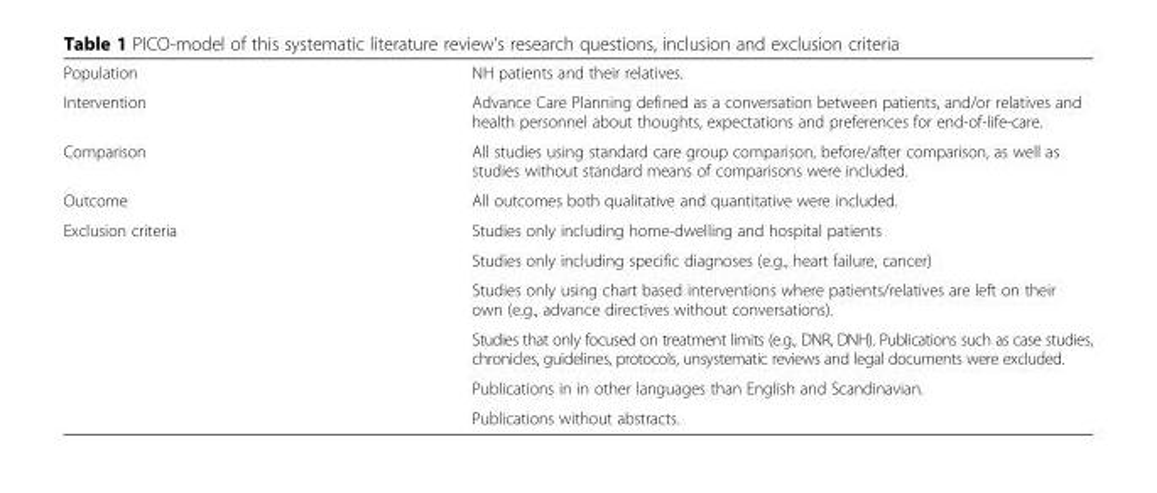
<table><tbody><tr><td>Population</td><td>NH patients and their relatives.</td></tr><tr><td>Intervention</td><td>Advance Care Planning defined as a conversation between patients, and/or relatives and health personnel about thoughts, expectations and preferences for end-of-life-care.</td></tr><tr><td>Comparison</td><td>All studies using standard care group comparison, before/after comparison, as well as studies without standard means of comparisons were included.</td></tr><tr><td>Outcome</td><td>All outcomes both qualitative and quantitative were included.</td></tr><tr><td rowspan="6">Exclusion criteria</td><td>Studies only including home-dwelling and hospital patients</td></tr><tr><td>Studies only including specific diagnoses (e.g., heart failure, cancer)</td></tr><tr><td>Studies only using chart based interventions where patients/relatives are left on their own (e.g., advance directives without conversations).</td></tr><tr><td>Studies that only focused on treatment limits (e.g., DNR, DNH). Publications such as case studies, chronicles, guidelines, protocols, unsystematic reviews and legal documents were excluded.</td></tr><tr><td>Publications in in other languages than English and Scandinavian.</td></tr><tr><td>Publications without abstracts.</td></tr></tbody></table>